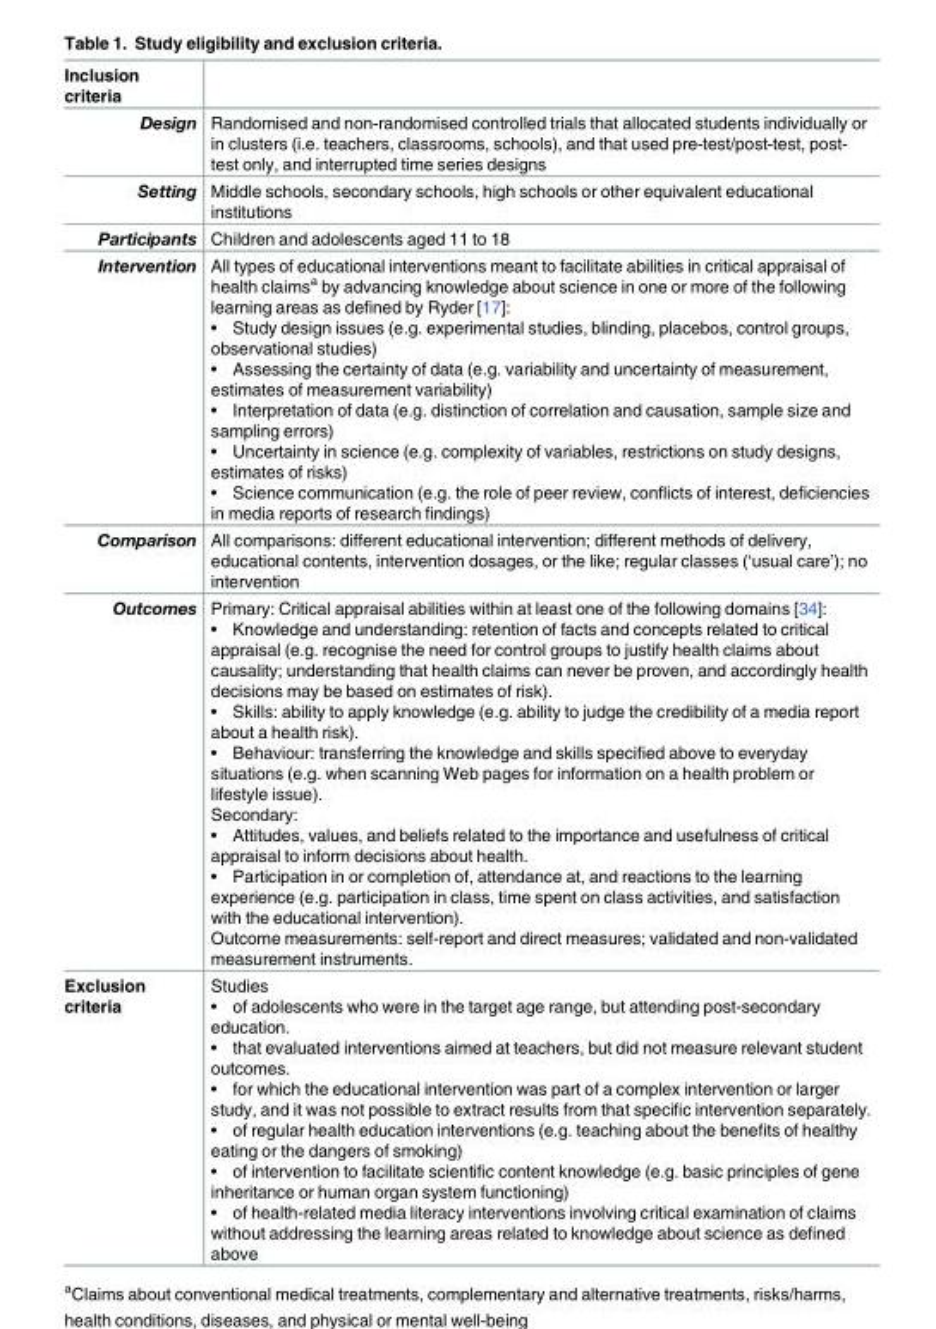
<table><tbody><tr><td colspan="2">Inclusion criteria</td></tr><tr><td>Design</td><td>Randomised and non-randomised controlled trials that allocated students individually or in clusters (i.e. teachers, classrooms, schools), and that used pre-test/post-test, post- test only, and interrupted time series designs</td></tr><tr><td>Setting</td><td>Middle schools, secondary schools, high schools or other equivalent educational institutions</td></tr><tr><td>Participants</td><td>Children and adolescents aged 11 to 18</td></tr><tr><td>Intervention</td><td>All types of educational interventions meant to facilitate abilities in critical appraisal of health claims<sup>a</sup> by advancing knowledge about science in one or more of the following learning areas as defined by Ryder [17]: • Study design issues (e.g. experimental studies, blinding, placebos, control groups, observational studies) • Assessing the certainty of data (e.g. variability and uncertainty of measurement, estimates of measurement variability) • Interpretation of data (e.g. distinction of correlation and causation, sample size and sampling errors) • Uncertainty in science (e.g. complexity of variables, restrictions on study designs, estimates of risks) • Science communication (e.g. the role of peer review, conflicts of interest, deficiencies in media reports of research findings)</td></tr><tr><td>Comparison</td><td>All comparisons: different educational intervention; different methods of delivery, educational contents, intervention dosages, or the like; regular classes (‘usual care’); no intervention</td></tr><tr><td>Outcomes</td><td>Primary: Critical appraisal abilities within at least one of the following domains [34]: • Knowledge and understanding: retention of facts and concepts related to critical appraisal (e.g. recognise the need for control groups to justify health claims about causality; understanding that health claims can never be proven, and accordingly health decisions may be based on estimates of risk). • Skills: ability to apply knowledge (e.g. ability to judge the credibility of a media report about a health risk). • Behaviour: transferring the knowledge and skills specified above to everyday situations (e.g. when scanning Web pages for information on a health problem or lifestyle issue). Secondary: • Attitudes, values, and beliefs related to the importance and usefulness of critical appraisal to inform decisions about health. • Participation in or completion of, attendance at, and reactions to the learning experience (e.g. participation in class, time spent on class activities, and satisfaction with the educational intervention). Outcome measurements: self-report and direct measures; validated and non-validated measurement instruments.</td></tr><tr><td>Exclusion criteria</td><td>Studies • of adolescents who were in the target age range, but attending post-secondary education. • that evaluated interventions aimed at teachers, but did not measure relevant student outcomes. • for which the educational intervention was part of a complex intervention or larger study, and it was not possible to extract results from that specific intervention separately. • of regular health education interventions (e.g. teaching about the benefits of healthy eating or the dangers of smoking) • of intervention to facilitate scientific content knowledge (e.g. basic principles of gene inheritance or human organ system functioning) • of health-related media literacy interventions involving critical examination of claims without addressing the learning areas related to knowledge about science as defined above</td></tr></tbody></table>